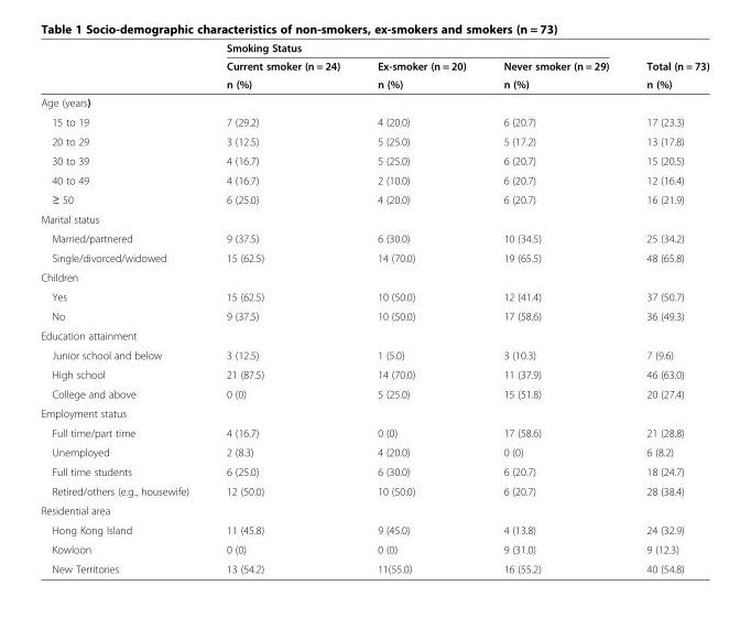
<table><thead><tr><td rowspan="3"></td><td colspan="3">Smoking Status</td><td rowspan="3">Total (n = 73) n (%)</td></tr><tr><td rowspan="2">Current smoker (n = 24) n (%)</td><td rowspan="2">Ex-smoker (n = 20) n (%)</td><td rowspan="2">Never smoker (n = 29) n (%)</td></tr><tr></tr></thead><tbody><tr><td colspan="5">Age (years)</td></tr><tr><td>15 to 19</td><td>7 (29.2)</td><td>4 (20.0)</td><td>6 (20.7)</td><td>17 (23.3)</td></tr><tr><td>20 to 29</td><td>3 (12.5)</td><td>5 (25.0)</td><td>5 (17.2)</td><td>13 (17.8)</td></tr><tr><td>30 to 39</td><td>4 (16.7)</td><td>5 (25.0)</td><td>6 (20.7)</td><td>15 (20.5)</td></tr><tr><td>40 to 49</td><td>4 (16.7)</td><td>2 (10.0)</td><td>6 (20.7)</td><td>12 (16.4)</td></tr><tr><td>≥ 50</td><td>6 (25.0)</td><td>4 (20.0)</td><td>6 (20.7)</td><td>16 (21.9)</td></tr><tr><td colspan="5">Marital status</td></tr><tr><td>Married/partnered</td><td>9 (37.5)</td><td>6 (30.0)</td><td>10 (34.5)</td><td>25 (34.2)</td></tr><tr><td>Single/divorced/widowed</td><td>15 (62.5)</td><td>14 (70.0)</td><td>19 (65.5)</td><td>48 (65.8)</td></tr><tr><td colspan="5">Children</td></tr><tr><td>Yes</td><td>15 (62.5)</td><td>10 (50.0)</td><td>12 (41.4)</td><td>37 (50.7)</td></tr><tr><td>No</td><td>9 (37.5)</td><td>10 (50.0)</td><td>17 (58.6)</td><td>36 (49.3)</td></tr><tr><td colspan="5">Education attainment</td></tr><tr><td>Junior school and below</td><td>3 (12.5)</td><td>1 (5.0)</td><td>3 (10.3)</td><td>7 (9.6)</td></tr><tr><td>High school</td><td>21 (87.5)</td><td>14 (70.0)</td><td>11 (37.9)</td><td>46 (63.0)</td></tr><tr><td>College and above</td><td>0 (0)</td><td>5 (25.0)</td><td>15 (51.8)</td><td>20 (27.4)</td></tr><tr><td colspan="5">Employment status</td></tr><tr><td>Full time/part time</td><td>4 (16.7)</td><td>0 (0)</td><td>17 (58.6)</td><td>21 (28.8)</td></tr><tr><td>Unemployed</td><td>2 (8.3)</td><td>4 (20.0)</td><td>0 (0)</td><td>6 (8.2)</td></tr><tr><td>Full time students</td><td>6 (25.0)</td><td>6 (30.0)</td><td>6 (20.7)</td><td>18 (24.7)</td></tr><tr><td>Retired/others (e.g., housewife)</td><td>12 (50.0)</td><td>10 (50.0)</td><td>6 (20.7)</td><td>28 (38.4)</td></tr><tr><td colspan="5">Residential area</td></tr><tr><td>Hong Kong Island</td><td>11 (45.8)</td><td>9 (45.0)</td><td>4 (13.8)</td><td>24 (32.9)</td></tr><tr><td>Kowloon</td><td>0 (0)</td><td>0 (0)</td><td>9 (31.0)</td><td>9 (12.3)</td></tr><tr><td>New Territories</td><td>13 (54.2)</td><td>11(55.0)</td><td>16 (55.2)</td><td>40 (54.8)</td></tr></tbody></table>